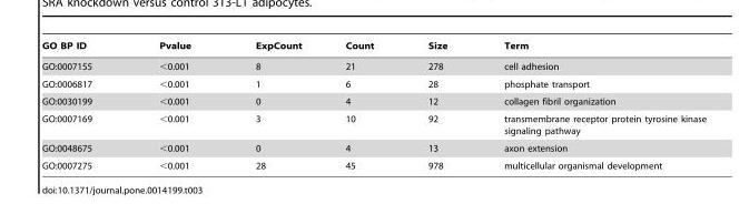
<table><thead><tr><td>GO BP ID</td><td>Pvalue</td><td>ExpCount</td><td>Count</td><td>Size</td><td>Term</td></tr></thead><tbody><tr><td>GO:0007155</td><td>&lt;0.001</td><td>8</td><td>21</td><td>278</td><td>cell adhesion</td></tr><tr><td>GO:0006817</td><td>&lt;0.001</td><td>1</td><td>6</td><td>28</td><td>phosphate transport</td></tr><tr><td>GO:0030199</td><td>&lt;0.001</td><td>0</td><td>4</td><td>12</td><td>collagen fibril organization</td></tr><tr><td>GO:0007169</td><td>&lt;0.001</td><td>3</td><td>10</td><td>92</td><td>transmembrane receptor protein tyrosine kinase signaling pathway</td></tr><tr><td>GO:0048675</td><td>&lt;0.001</td><td>0</td><td>4</td><td>13</td><td>axon extension</td></tr><tr><td>GO:0007275</td><td>&lt;0.001</td><td>28</td><td>45</td><td>978</td><td>multicellular organismal development</td></tr></tbody></table>